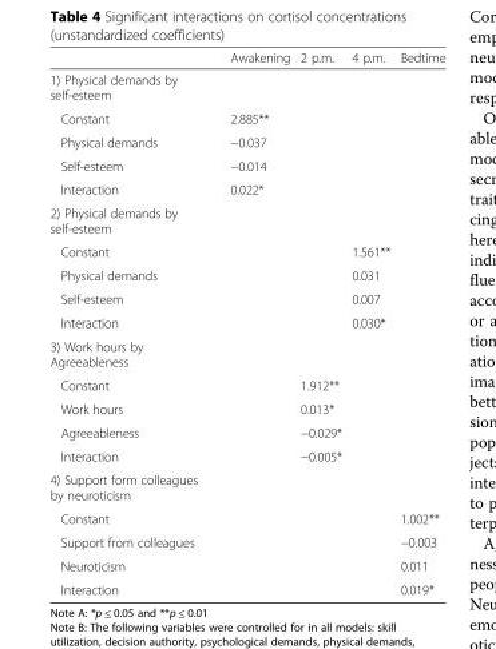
<table><thead><tr><td></td><td>Awakening</td><td>2 p.m.</td><td>4 p.m.</td><td>Bedtime</td></tr></thead><tbody><tr><td colspan="5">1) Physical demands by self-esteem</td></tr><tr><td>Constant</td><td>2.885**</td><td></td><td></td><td></td></tr><tr><td>Physical demands</td><td>−0.037</td><td></td><td></td><td></td></tr><tr><td>Self-esteem</td><td>−0.014</td><td></td><td></td><td></td></tr><tr><td>Interaction</td><td>0.022*</td><td></td><td></td><td></td></tr><tr><td colspan="5">2) Physical demands by self-esteem</td></tr><tr><td>Constant</td><td></td><td></td><td>1.561**</td><td></td></tr><tr><td>Physical demands</td><td></td><td></td><td>0.031</td><td></td></tr><tr><td>Self-esteem</td><td></td><td></td><td>0.007</td><td></td></tr><tr><td>Interaction</td><td></td><td></td><td>0.030*</td><td></td></tr><tr><td colspan="5">3) Work hours by Agreeableness</td></tr><tr><td>Constant</td><td></td><td>1.912**</td><td></td><td></td></tr><tr><td>Work hours</td><td></td><td>0.013*</td><td></td><td></td></tr><tr><td>Agreeableness</td><td></td><td>−0.029*</td><td></td><td></td></tr><tr><td>Interaction</td><td></td><td>−0.005*</td><td></td><td></td></tr><tr><td colspan="5">4) Support form colleagues by neuroticism</td></tr><tr><td>Constant</td><td></td><td></td><td></td><td>1.002**</td></tr><tr><td>Support from colleagues</td><td></td><td></td><td></td><td>−0.003</td></tr><tr><td>Neuroticism</td><td></td><td></td><td></td><td>0.011</td></tr><tr><td>Interaction</td><td></td><td></td><td></td><td>0.019*</td></tr></tbody></table>